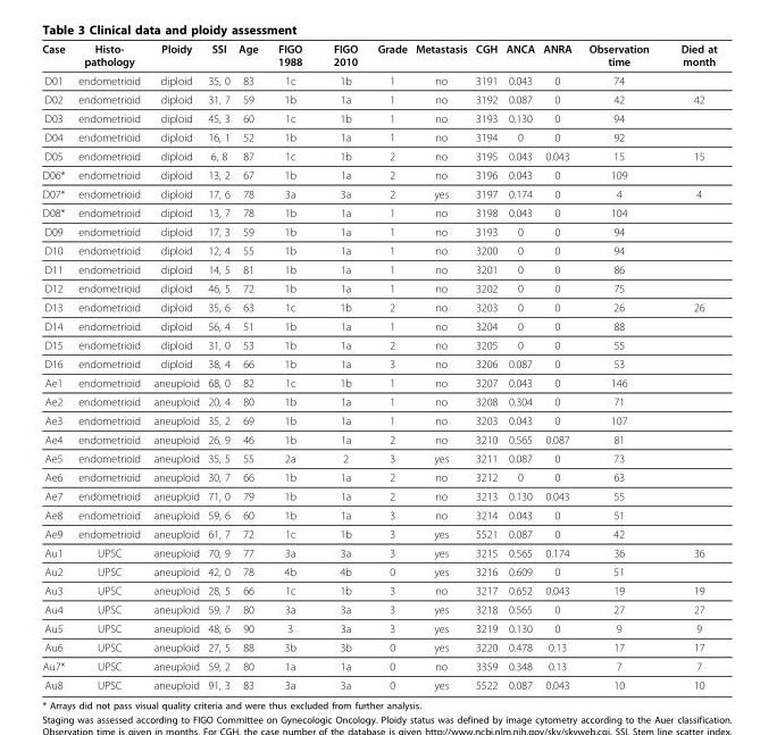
<table><thead><tr><td>Case</td><td>Histo- pathology</td><td>Ploidy</td><td>SSI</td><td>Age</td><td>FIGO 1988</td><td>FIGO 2010</td><td>Grade</td><td>Metastasis</td><td>CGH</td><td>ANCA</td><td>ANRA</td><td>Observation time</td><td>Died at month</td></tr></thead><tbody><tr><td>D01</td><td>endometrioid</td><td>diploid</td><td>35, 0</td><td>83</td><td>1c</td><td>1b</td><td>1</td><td>no</td><td>3191</td><td>0.043</td><td>0</td><td>74</td><td></td></tr><tr><td>D02</td><td>endometrioid</td><td>diploid</td><td>31, 7</td><td>59</td><td>1b</td><td>1a</td><td>1</td><td>no</td><td>3192</td><td>0.087</td><td>0</td><td>42</td><td>42</td></tr><tr><td>D03</td><td>endometrioid</td><td>diploid</td><td>45, 3</td><td>60</td><td>1c</td><td>1b</td><td>1</td><td>no</td><td>3193</td><td>0.130</td><td>0</td><td>94</td><td></td></tr><tr><td>D04</td><td>endometrioid</td><td>diploid</td><td>16, 1</td><td>52</td><td>1b</td><td>1a</td><td>1</td><td>no</td><td>3194</td><td>0</td><td>0</td><td>92</td><td></td></tr><tr><td>D05</td><td>endometrioid</td><td>diploid</td><td>6, 8</td><td>87</td><td>1c</td><td>1b</td><td>2</td><td>no</td><td>3195</td><td>0.043</td><td>0.043</td><td>15</td><td>15</td></tr><tr><td>D06*</td><td>endometrioid</td><td>diploid</td><td>13, 2</td><td>67</td><td>1b</td><td>1a</td><td>2</td><td>no</td><td>3196</td><td>0.043</td><td>0</td><td>109</td><td></td></tr><tr><td>D07*</td><td>endometrioid</td><td>diploid</td><td>17, 6</td><td>78</td><td>3a</td><td>3a</td><td>2</td><td>yes</td><td>3197</td><td>0.174</td><td>0</td><td>4</td><td>4</td></tr><tr><td>D08*</td><td>endometrioid</td><td>diploid</td><td>13, 7</td><td>78</td><td>1b</td><td>1a</td><td>1</td><td>no</td><td>3198</td><td>0.043</td><td>0</td><td>104</td><td></td></tr><tr><td>D09</td><td>endometrioid</td><td>diploid</td><td>17, 3</td><td>59</td><td>1b</td><td>1a</td><td>1</td><td>no</td><td>3193</td><td>0</td><td>0</td><td>94</td><td></td></tr><tr><td>D10</td><td>endometrioid</td><td>diploid</td><td>12, 4</td><td>55</td><td>1b</td><td>1a</td><td>1</td><td>no</td><td>3200</td><td>0</td><td>0</td><td>94</td><td></td></tr><tr><td>D11</td><td>endometrioid</td><td>diploid</td><td>14, 5</td><td>81</td><td>1b</td><td>1a</td><td>1</td><td>no</td><td>3201</td><td>0</td><td>0</td><td>86</td><td></td></tr><tr><td>D12</td><td>endometrioid</td><td>diploid</td><td>46, 5</td><td>72</td><td>1b</td><td>1a</td><td>1</td><td>no</td><td>3202</td><td>0</td><td>0</td><td>75</td><td></td></tr><tr><td>D13</td><td>endometrioid</td><td>diploid</td><td>35, 6</td><td>63</td><td>1c</td><td>1b</td><td>2</td><td>no</td><td>3203</td><td>0</td><td>0</td><td>26</td><td>26</td></tr><tr><td>D14</td><td>endometrioid</td><td>diploid</td><td>56, 4</td><td>51</td><td>1b</td><td>1a</td><td>1</td><td>no</td><td>3204</td><td>0</td><td>0</td><td>88</td><td></td></tr><tr><td>D15</td><td>endometrioid</td><td>diploid</td><td>31, 0</td><td>53</td><td>1b</td><td>1a</td><td>2</td><td>no</td><td>3205</td><td>0</td><td>0</td><td>55</td><td></td></tr><tr><td>D16</td><td>endometrioid</td><td>diploid</td><td>38, 4</td><td>66</td><td>1b</td><td>1a</td><td>3</td><td>no</td><td>3206</td><td>0.087</td><td>0</td><td>53</td><td></td></tr><tr><td>Ae1</td><td>endometrioid</td><td>aneuploid</td><td>68, 0</td><td>82</td><td>1c</td><td>1b</td><td>1</td><td>no</td><td>3207</td><td>0.043</td><td>0</td><td>146</td><td></td></tr><tr><td>Ae2</td><td>endometrioid</td><td>aneuploid</td><td>20, 4</td><td>80</td><td>1b</td><td>1a</td><td>1</td><td>no</td><td>3208</td><td>0.304</td><td>0</td><td>71</td><td></td></tr><tr><td>Ae3</td><td>endometrioid</td><td>aneuploid</td><td>35, 2</td><td>69</td><td>1b</td><td>1a</td><td>1</td><td>no</td><td>3203</td><td>0.043</td><td>0</td><td>107</td><td></td></tr><tr><td>Ae4</td><td>endometrioid</td><td>aneuploid</td><td>26, 9</td><td>46</td><td>1b</td><td>1a</td><td>2</td><td>no</td><td>3210</td><td>0.565</td><td>0.087</td><td>81</td><td></td></tr><tr><td>Ae5</td><td>endometrioid</td><td>aneuploid</td><td>35, 5</td><td>55</td><td>2a</td><td>2</td><td>3</td><td>yes</td><td>3211</td><td>0.087</td><td>0</td><td>73</td><td></td></tr><tr><td>Ae6</td><td>endometrioid</td><td>aneuploid</td><td>30, 7</td><td>66</td><td>1b</td><td>1a</td><td>2</td><td>no</td><td>3212</td><td>0</td><td>0</td><td>63</td><td></td></tr><tr><td>Ae7</td><td>endometrioid</td><td>aneuploid</td><td>71, 0</td><td>79</td><td>1b</td><td>1a</td><td>2</td><td>no</td><td>3213</td><td>0.130</td><td>0.043</td><td>55</td><td></td></tr><tr><td>Ae8</td><td>endometrioid</td><td>aneuploid</td><td>59, 6</td><td>60</td><td>1b</td><td>1a</td><td>3</td><td>no</td><td>3214</td><td>0.043</td><td>0</td><td>51</td><td></td></tr><tr><td>Ae9</td><td>endometrioid</td><td>aneuploid</td><td>61, 7</td><td>72</td><td>1c</td><td>1b</td><td>3</td><td>yes</td><td>5521</td><td>0.087</td><td>0</td><td>42</td><td></td></tr><tr><td>Au1</td><td>UPSC</td><td>aneuploid</td><td>70, 9</td><td>77</td><td>3a</td><td>3a</td><td>3</td><td>yes</td><td>3215</td><td>0.565</td><td>0.174</td><td>36</td><td>36</td></tr><tr><td>Au2</td><td>UPSC</td><td>aneuploid</td><td>42, 0</td><td>78</td><td>4b</td><td>4b</td><td>0</td><td>yes</td><td>3216</td><td>0.609</td><td>0</td><td>51</td><td></td></tr><tr><td>Au3</td><td>UPSC</td><td>aneuploid</td><td>28, 5</td><td>66</td><td>1c</td><td>1b</td><td>3</td><td>no</td><td>3217</td><td>0.652</td><td>0.043</td><td>19</td><td>19</td></tr><tr><td>Au4</td><td>UPSC</td><td>aneuploid</td><td>59, 7</td><td>80</td><td>3a</td><td>3a</td><td>3</td><td>yes</td><td>3218</td><td>0.565</td><td>0</td><td>27</td><td>27</td></tr><tr><td>Au5</td><td>UPSC</td><td>aneuploid</td><td>48, 6</td><td>90</td><td>3</td><td>3a</td><td>3</td><td>yes</td><td>3219</td><td>0.130</td><td>0</td><td>9</td><td>9</td></tr><tr><td>Au6</td><td>UPSC</td><td>aneuploid</td><td>27, 5</td><td>88</td><td>3b</td><td>3b</td><td>0</td><td>yes</td><td>3220</td><td>0.478</td><td>0.13</td><td>17</td><td>17</td></tr><tr><td>Au7*</td><td>UPSC</td><td>aneuploid</td><td>59, 2</td><td>80</td><td>1a</td><td>1a</td><td>0</td><td>no</td><td>3359</td><td>0.348</td><td>0.13</td><td>7</td><td>7</td></tr><tr><td>Au8</td><td>UPSC</td><td>aneuploid</td><td>91, 3</td><td>83</td><td>3a</td><td>3a</td><td>0</td><td>yes</td><td>5522</td><td>0.087</td><td>0.043</td><td>10</td><td>10</td></tr></tbody></table>